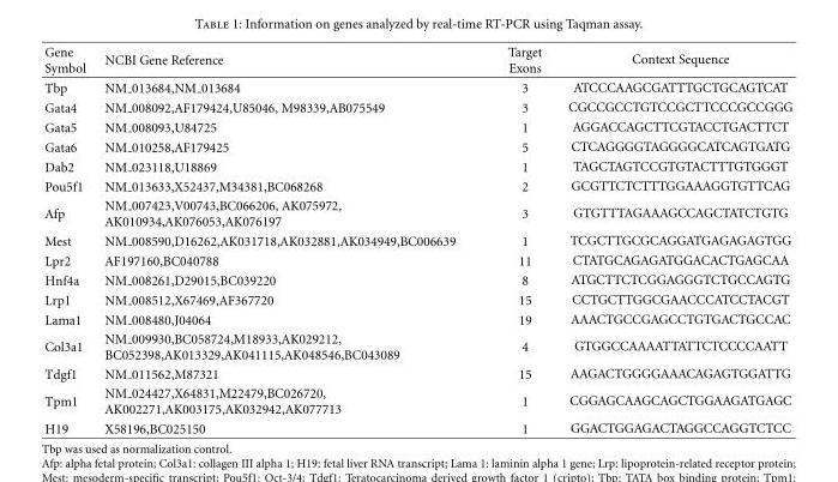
<table><thead><tr><td>Gene Symbol</td><td>NCBI Gene Reference</td><td>Target Exons</td><td>Context Sequence</td></tr></thead><tbody><tr><td>Tbp</td><td>NM <sub>013684,NM</sub> 013684</td><td>3</td><td>ATCCCAAGCGATTTGCTGCAGTCAT</td></tr><tr><td>Gata4</td><td>NM 008092,AF179424,U85046, M98339,AB075549</td><td>3</td><td>CGCCGCCTGTCCGCTTCCCGCCGGG</td></tr><tr><td>Gata5</td><td>NM 008093,U84725</td><td>1</td><td>AGGACCAGCTTCGTACCTGACTTCT</td></tr><tr><td>Gata6</td><td>NM 010258,AF179425</td><td>5</td><td>CTCAGGGGTAGGGGCATCAGTGATG</td></tr><tr><td>Dab2</td><td>NM 023118,U18869</td><td>1</td><td>TAGCTAGTCCGTGTACTTTGTGGGT</td></tr><tr><td>Pou5f1</td><td>NM 013633,X52437,M34381,BC068268</td><td>2</td><td>GCGTTCTCTTTGGAAAGGTGTTCAG</td></tr><tr><td>Afp</td><td>NM 007423,V00743,BC066206, AK075972, AK010934,AK076053,AK076197</td><td>3</td><td>GTGTTTAGAAAGCCAGCTATCTGTG</td></tr><tr><td>Mest</td><td>NM 008590,D16262,AK031718,AK032881,AK034949,BC006639</td><td>1</td><td>TCGCTTGCGCAGGATGAGAGAGTGG</td></tr><tr><td>Lpr2</td><td>AF197160,BC040788</td><td>11</td><td>CTATGCAGAGATGGACACTGAGCAA</td></tr><tr><td>Hnf4a</td><td>NM 008261,D29015,BC039220</td><td>8</td><td>ATGCTTCTCGGAGGGTCTGCCAGTG</td></tr><tr><td>Lrp1</td><td>NM 008512,X67469,AF367720</td><td>15</td><td>CCTGCTTGGCGAACCCATCCTACGT</td></tr><tr><td>Lama1</td><td>NM 008480,J04064</td><td>19</td><td>AAACTGCCGAGCCTGTGACTGCCAC</td></tr><tr><td>Col3a1</td><td>NM 009930,BC058724,M18933,AK029212, BC052398,AK013329,AK041115,AK048546,BC043089</td><td>4</td><td>GTGGCCAAAATTATTCTCCCCAATT</td></tr><tr><td>Tdgf1</td><td>NM 011562,M87321</td><td>15</td><td>AAGACTGGGGAAACAGAGTGGATTG</td></tr><tr><td>Tpm1</td><td>NM 024427,X64831,M22479,BC026720, AK002271,AK003175,AK032942,AK077713</td><td>1</td><td>CGGAGCAAGCAGCTGGAAGATGAGC</td></tr><tr><td>H19</td><td>X58196,BC025150</td><td>1</td><td>GGACTGGAGACTAGGCCAGGTCTCC</td></tr></tbody></table>